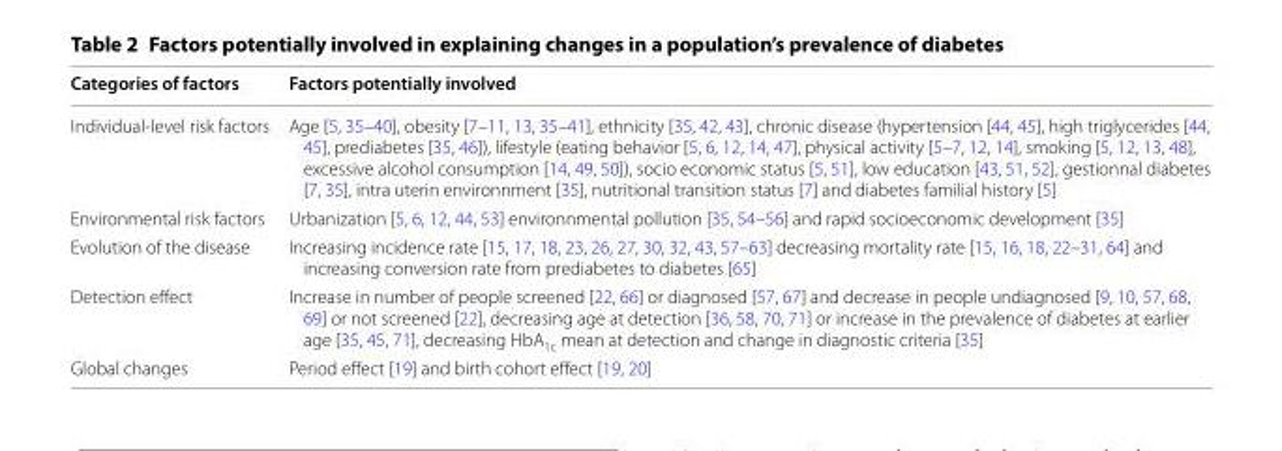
<table><thead><tr><td>Categories of factors</td><td>Factors potentially involved</td></tr></thead><tbody><tr><td>Individual-level risk factors</td><td>Age [5, 35–40], obesity [7–11, 13, 35–41], ethnicity [35, 42, 43], chronic disease (hypertension [44, 45], high triglycerides [44, 45], prediabetes [35, 46]), lifestyle (eating behavior [5, 6, 12, 14, 47], physical activity [5–7, 12, 14], smoking [5, 12, 13, 48], excessive alcohol consumption [14, 49, 50]), socio economic status [5, 51], low education [43, 51, 52], gestionnal diabetes [7, 35], intra uterin environnment [35], nutritional transition status [7] and diabetes familial history [5]</td></tr><tr><td>Environmental risk factors</td><td>Urbanization [5, 6, 12, 44, 53] environnmental pollution [35, 54–56] and rapid socioeconomic development [35]</td></tr><tr><td>Evolution of the disease</td><td>Increasing incidence rate [15, 17, 18, 23, 26, 27, 30, 32, 43, 57–63] decreasing mortality rate [15, 16, 18, 22–31, 64] and increasing conversion rate from prediabetes to diabetes [65]</td></tr><tr><td>Detection effect</td><td>Increase in number of people screened [22, 66] or diagnosed [57, 67] and decrease in people undiagnosed [9, 10, 57, 68, 69] or not screened [22], decreasing age at detection [36, 58, 70, 71] or increase in the prevalence of diabetes at earlier age [35, 45, 71], decreasing HbA<sub>1c</sub> mean at detection and change in diagnostic criteria [35]</td></tr><tr><td>Global changes</td><td>Period effect [19] and birth cohort effect [19, 20]</td></tr></tbody></table>